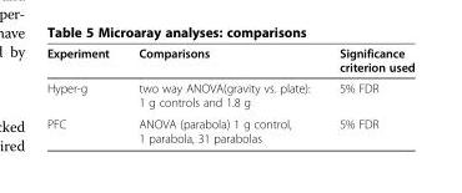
<table><thead><tr><td>Experiment</td><td>Comparisons</td><td>Significance criterion used</td></tr></thead><tbody><tr><td>Hyper-g</td><td>two way ANOVA(gravity vs. plate): 1 g controls and 1.8 g</td><td>5% FDR</td></tr><tr><td>PFC</td><td>ANOVA (parabola) 1 g control, 1 parabola, 31 parabolas</td><td>5% FDR</td></tr></tbody></table>